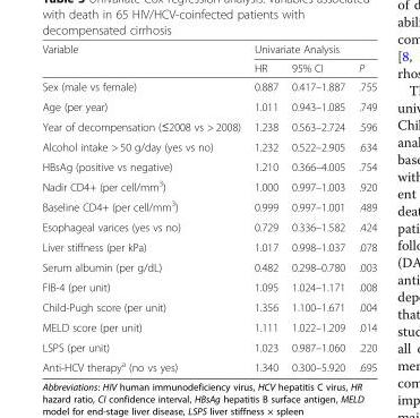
<table><thead><tr><td rowspan="2">Variable</td><td colspan="3">Univariate Analysis</td></tr><tr><td>HR</td><td>95% CI</td><td>P</td></tr></thead><tbody><tr><td>Sex (male vs female)</td><td>0.887</td><td>0.417–1.887</td><td>.755</td></tr><tr><td>Age (per year)</td><td>1.011</td><td>0.943–1.085</td><td>.749</td></tr><tr><td>Year of decompensation (≤2008 vs &gt; 2008)</td><td>1.238</td><td>0.563–2.724</td><td>.596</td></tr><tr><td>Alcohol intake &gt; 50 g/day (yes vs no)</td><td>1.232</td><td>0.522–2.905</td><td>.634</td></tr><tr><td>HBsAg (positive vs negative)</td><td>1.210</td><td>0.366–4.005</td><td>.754</td></tr><tr><td>Nadir CD4+ (per cell/mm<sup>3</sup>)</td><td>1.000</td><td>0.997–1.003</td><td>.920</td></tr><tr><td>Baseline CD4+ (per cell/mm<sup>3</sup>)</td><td>0.999</td><td>0.997–1.001</td><td>.489</td></tr><tr><td>Esophageal varices (yes vs no)</td><td>0.729</td><td>0.336–1.582</td><td>.424</td></tr><tr><td>Liver stiffness (per kPa)</td><td>1.017</td><td>0.998–1.037</td><td>.078</td></tr><tr><td>Serum albumin (per g/dL)</td><td>0.482</td><td>0.298–0.780</td><td>.003</td></tr><tr><td>FIB-4 (per unit)</td><td>1.095</td><td>1.024–1.171</td><td>.008</td></tr><tr><td>Child-Pugh score (per unit)</td><td>1.356</td><td>1.100–1.671</td><td>.004</td></tr><tr><td>MELD score (per unit)</td><td>1.111</td><td>1.022–1.209</td><td>.014</td></tr><tr><td>LSPS (per unit)</td><td>1.023</td><td>0.987–1.060</td><td>.220</td></tr><tr><td>Anti-HCV therapy<sup>a</sup> (no vs yes)</td><td>1.340</td><td>0.300–5.920</td><td>.695</td></tr></tbody></table>